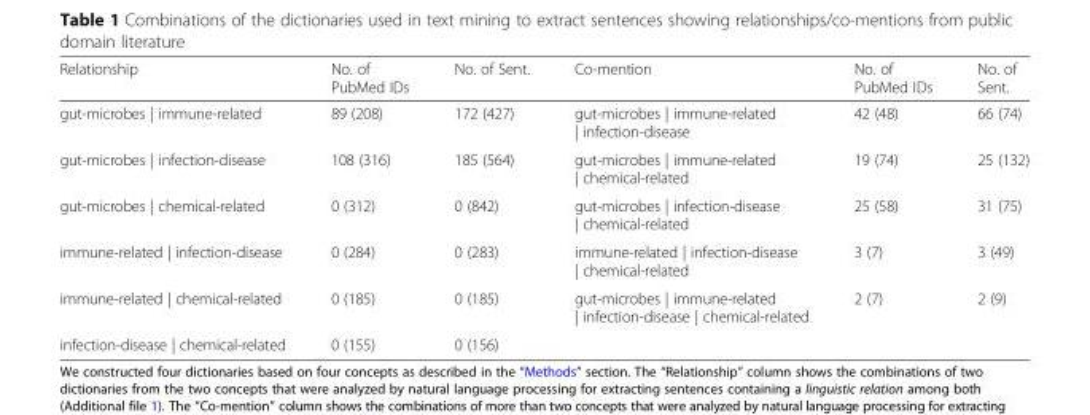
<table><thead><tr><td>Relationship</td><td>No. of PubMed IDs</td><td>No. of Sent.</td><td>Co-mention</td><td>No. of PubMed IDs</td><td>No. of Sent.</td></tr></thead><tbody><tr><td>gut-microbes | immune-related</td><td>89 (208)</td><td>172 (427)</td><td>gut-microbes | immune-related | infection-disease</td><td>42 (48)</td><td>66 (74)</td></tr><tr><td>gut-microbes | infection-disease</td><td>108 (316)</td><td>185 (564)</td><td>gut-microbes | immune-related | chemical-related</td><td>19 (74)</td><td>25 (132)</td></tr><tr><td>gut-microbes | chemical-related</td><td>0 (312)</td><td>0 (842)</td><td>gut-microbes | infection-disease | chemical-related</td><td>25 (58)</td><td>31 (75)</td></tr><tr><td>immune-related | infection-disease</td><td>0 (284)</td><td>0 (283)</td><td>immune-related | infection-disease | chemical-related</td><td>3 (7)</td><td>3 (49)</td></tr><tr><td>immune-related | chemical-related</td><td>0 (185)</td><td>0 (185)</td><td>gut-microbes | immune-related | infection-disease | chemical-related</td><td>2 (7)</td><td>2 (9)</td></tr><tr><td>infection-disease | chemical-related</td><td>0 (155)</td><td>0 (156)</td><td></td><td></td><td></td></tr></tbody></table>